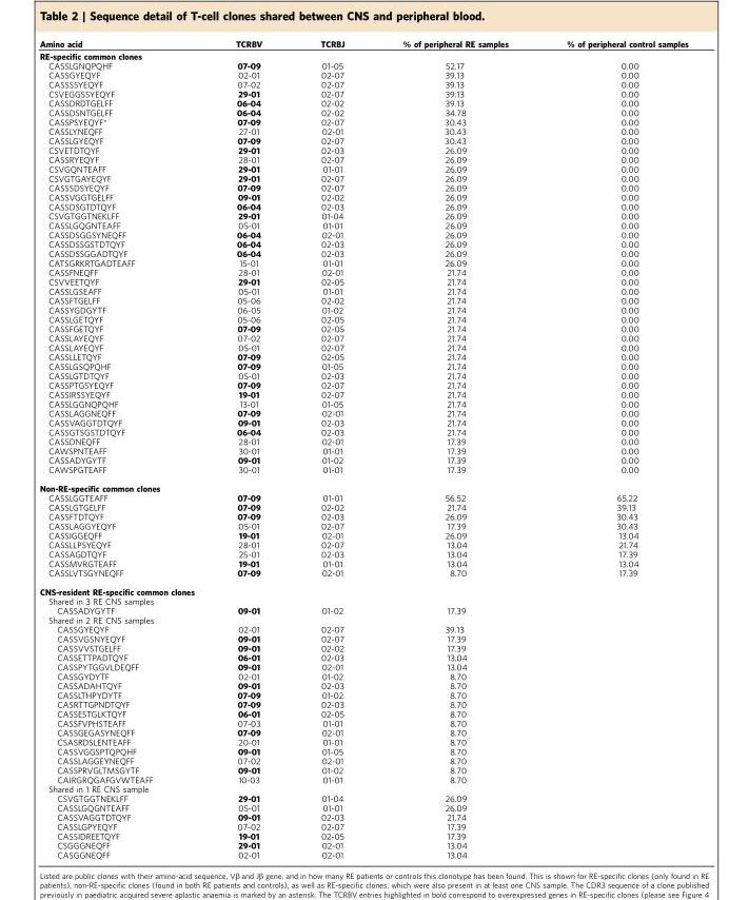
<table><thead><tr><td>Amino acid</td><td>TCRBV</td><td>TCRBJ</td><td>% of peripheral RE samples</td><td>% of peripheral control samples</td></tr></thead><tbody><tr><td colspan="5">RE-specific common clones</td></tr><tr><td>CASSLGNQPQHF</td><td>07-09</td><td>01-05</td><td>52.17</td><td>0.00</td></tr><tr><td>CASSGYEQYF</td><td>02-01</td><td>02-07</td><td>39.13</td><td>0.00</td></tr><tr><td>CASSSSYEQYF</td><td>07-02</td><td>02-07</td><td>39.13</td><td>0.00</td></tr><tr><td>CSVEGGSSYEQYF</td><td>29-01</td><td>02-07</td><td>39.13</td><td>0.00</td></tr><tr><td>CASSDRDTGELFF</td><td>06-04</td><td>02-02</td><td>39.13</td><td>0.00</td></tr><tr><td>CASSDSNTGELFF</td><td>06-04</td><td>02-02</td><td>34.78</td><td>0.00</td></tr><tr><td>CASSPSYEQYF*</td><td>07-09</td><td>02-07</td><td>30.43</td><td>0.00</td></tr><tr><td>CASSLYNEQFF</td><td>27-01</td><td>02-01</td><td>30.43</td><td>0.00</td></tr><tr><td>CASSLGYEQYF</td><td>07-09</td><td>02-07</td><td>30.43</td><td>0.00</td></tr><tr><td>CSVETDTQYF</td><td>29-01</td><td>02-03</td><td>26.09</td><td>0.00</td></tr><tr><td>CASSRYEQYF</td><td>28-01</td><td>02-07</td><td>26.09</td><td>0.00</td></tr><tr><td>CSVGQNTEAFF</td><td>29-01</td><td>01-01</td><td>26.09</td><td>0.00</td></tr><tr><td>CSVGTGAYEQYF</td><td>29-01</td><td>02-07</td><td>26.09</td><td>0.00</td></tr><tr><td>CASSSDSYEQYF</td><td>07-09</td><td>02-07</td><td>26.09</td><td>0.00</td></tr><tr><td>CASSVGGTGELFF</td><td>09-01</td><td>02-02</td><td>26.09</td><td>0.00</td></tr><tr><td>CASSDSGTDTQYF</td><td>06-04</td><td>02-03</td><td>26.09</td><td>0.00</td></tr><tr><td>CSVGTGGTNEKLFF</td><td>29-01</td><td>01-04</td><td>26.09</td><td>0.00</td></tr><tr><td>CASSLGQGNTEAFF</td><td>05-01</td><td>01-01</td><td>26.09</td><td>0.00</td></tr><tr><td>CASSDSGGSYNEQFF</td><td>06-04</td><td>02-01</td><td>26.09</td><td>0.00</td></tr><tr><td>CASSDSSGSTDTQYF</td><td>06-04</td><td>02-03</td><td>26.09</td><td>0.00</td></tr><tr><td>CASSDSSGGADTQYF</td><td>06-04</td><td>02-03</td><td>26.09</td><td>0.00</td></tr><tr><td>CATSGRKRTGADTEAFF</td><td>15-01</td><td>01-01</td><td>26.09</td><td>0.00</td></tr><tr><td>CASSFNEQFF</td><td>28-01</td><td>02-01</td><td>21.74</td><td>0.00</td></tr><tr><td>CSVVEETQYF</td><td>29-01</td><td>02-05</td><td>21.74</td><td>0.00</td></tr><tr><td>CASSLGSEAFF</td><td>05-01</td><td>01-01</td><td>21.74</td><td>0.00</td></tr><tr><td>CASSFTGELFF</td><td>05-06</td><td>02-02</td><td>21.74</td><td>0.00</td></tr><tr><td>CASSYGDGYTF</td><td>06-05</td><td>01-02</td><td>21.74</td><td>0.00</td></tr><tr><td>CASSLGETQYF</td><td>05-06</td><td>02-05</td><td>21.74</td><td>0.00</td></tr><tr><td>CASSFGETQYF</td><td>07-09</td><td>02-05</td><td>21.74</td><td>0.00</td></tr><tr><td>CASSLAYEQYF</td><td>07-02</td><td>02-07</td><td>21.74</td><td>0.00</td></tr><tr><td>CASSLAYEQYF</td><td>05-01</td><td>02-07</td><td>21.74</td><td>0.00</td></tr><tr><td>CASSLLETQYF</td><td>07-09</td><td>02-05</td><td>21.74</td><td>0.00</td></tr><tr><td>CASSLGSQPQHF</td><td>07-09</td><td>01-05</td><td>21.74</td><td>0.00</td></tr><tr><td>CASSLGTDTQYF</td><td>05-01</td><td>02-03</td><td>21.74</td><td>0.00</td></tr><tr><td>CASSPTGSYEQYF</td><td>07-09</td><td>02-07</td><td>21.74</td><td>0.00</td></tr><tr><td>CASSIRSSYEQYF</td><td>19-01</td><td>02-07</td><td>21.74</td><td>0.00</td></tr><tr><td>CASSLGGNQPQHF</td><td>13-01</td><td>01-05</td><td>21.74</td><td>0.00</td></tr><tr><td>CASSLAGGNEQFF</td><td>07-09</td><td>02-01</td><td>21.74</td><td>0.00</td></tr><tr><td>CASSVAGGTDTQYF</td><td>09-01</td><td>02-03</td><td>21.74</td><td>0.00</td></tr><tr><td>CASSGTSGSTDTQYF</td><td>06-04</td><td>02-03</td><td>21.74</td><td>0.00</td></tr><tr><td>CASSDNEQFF</td><td>28-01</td><td>02-01</td><td>17.39</td><td>0.00</td></tr><tr><td>CAWSPNTEAFF</td><td>30-01</td><td>01-01</td><td>17.39</td><td>0.00</td></tr><tr><td>CASSADYGYTF</td><td>09-01</td><td>01-02</td><td>17.39</td><td>0.00</td></tr><tr><td>CAWSPGTEAFF</td><td>30-01</td><td>01-01</td><td>17.39</td><td>0.00</td></tr><tr><td colspan="5">Non-RE-specific common clones</td></tr><tr><td>CASSLGGTEAFF</td><td>07-09</td><td>01-01</td><td>56.52</td><td>65.22</td></tr><tr><td>CASSLGTGELFF</td><td>07-09</td><td>02-02</td><td>21.74</td><td>39.13</td></tr><tr><td>CASSFTDTQYF</td><td>07-09</td><td>02-03</td><td>26.09</td><td>30.43</td></tr><tr><td>CASSLAGGYEQYF</td><td>05-01</td><td>02-07</td><td>17.39</td><td>30.43</td></tr><tr><td>CASSIGGEQFF</td><td>19-01</td><td>02-01</td><td>26.09</td><td>13.04</td></tr><tr><td>CASSLLPSYEQYF</td><td>28-01</td><td>02-07</td><td>13.04</td><td>21.74</td></tr><tr><td>CASSAGDTQYF</td><td>25-01</td><td>02-03</td><td>13.04</td><td>17.39</td></tr><tr><td>CASSMVRGTEAFF</td><td>19-01</td><td>01-01</td><td>13.04</td><td>13.04</td></tr><tr><td>CASSLVTSGYNEQFF</td><td>07-09</td><td>02-01</td><td>8.70</td><td>17.39</td></tr><tr><td colspan="5">CNS-resident RE-specific common clones</td></tr><tr><td colspan="5">Shared in 3 RE CNS samples</td></tr><tr><td>CASSADYGYTF</td><td>09-01</td><td>01-02</td><td>17.39</td><td></td></tr><tr><td colspan="5">Shared in 2 RE CNS samples</td></tr><tr><td>CASSGYEQYF</td><td>02-01</td><td>02-07</td><td>39.13</td><td></td></tr><tr><td>CASSVGSNYEQYF</td><td>09-01</td><td>02-07</td><td>17.39</td><td></td></tr><tr><td>CASSVVSTGELFF</td><td>09-01</td><td>02-02</td><td>17.39</td><td></td></tr><tr><td>CASSETTPADTQYF</td><td>06-01</td><td>02-03</td><td>13.04</td><td></td></tr><tr><td>CASSPYTGGVLDEQFF</td><td>09-01</td><td>02-01</td><td>13.04</td><td></td></tr><tr><td>CASSGYDYTF</td><td>02-01</td><td>01-02</td><td>8.70</td><td></td></tr><tr><td>CASSADAHTQYF</td><td>09-01</td><td>02-03</td><td>8.70</td><td></td></tr><tr><td>CASSLTHPYDYTF</td><td>07-09</td><td>01-02</td><td>8.70</td><td></td></tr><tr><td>CASRTTGPNDTQYF</td><td>07-09</td><td>02-03</td><td>8.70</td><td></td></tr><tr><td>CASSESTGLKTQYF</td><td>06-01</td><td>02-05</td><td>8.70</td><td></td></tr><tr><td>CASSFVPHSTEAFF</td><td>07-03</td><td>01-01</td><td>8.70</td><td></td></tr><tr><td>CASSGEGASYNEQFF</td><td>07-09</td><td>02-01</td><td>8.70</td><td></td></tr><tr><td>CSASRDSLENTEAFF</td><td>20-01</td><td>01-01</td><td>8.70</td><td></td></tr><tr><td>CASSVGGSPTQPQHF</td><td>09-01</td><td>01-05</td><td>8.70</td><td></td></tr><tr><td>CASSLAGGEYNEQFF</td><td>07-02</td><td>02-01</td><td>8.70</td><td></td></tr><tr><td>CASSPRVGLTMSGYTF</td><td>09-01</td><td>01-02</td><td>8.70</td><td></td></tr><tr><td>CAIRGRQGAFGVWTEAFF</td><td>10-03</td><td>01-01</td><td>8.70</td><td></td></tr><tr><td colspan="5">Shared in 1 RE CNS sample</td></tr><tr><td>CSVGTGGTNEKLFF</td><td>29-01</td><td>01-04</td><td>26.09</td><td></td></tr><tr><td>CASSLGQGNTEAFF</td><td>05-01</td><td>01-01</td><td>26.09</td><td></td></tr><tr><td>CASSVAGGTDTQYF</td><td>09-01</td><td>02-03</td><td>21.74</td><td></td></tr><tr><td>CASSLGPYEQYF</td><td>07-02</td><td>02-07</td><td>17.39</td><td></td></tr><tr><td>CASSIDREETQYF</td><td>19-01</td><td>02-05</td><td>17.39</td><td></td></tr><tr><td>CSGGGNEQFF</td><td>29-01</td><td>02-01</td><td>13.04</td><td></td></tr><tr><td>CASGGNEQFF</td><td>02-01</td><td>02-01</td><td>13.04</td><td></td></tr></tbody></table>